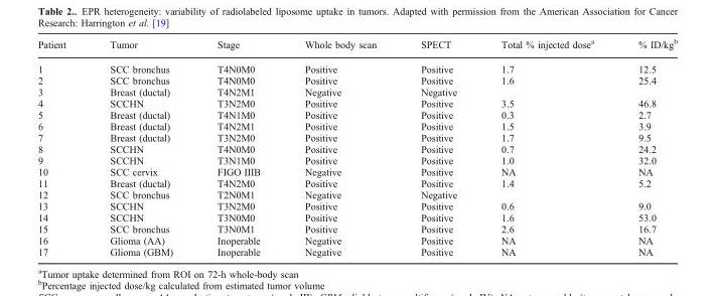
<table><thead><tr><td>Patient</td><td>Tumor</td><td>Stage</td><td>Whole body scan</td><td>SPECT</td><td>Total % injected dose<sup>a</sup></td><td>% ID/kg<sup>b</sup></td></tr></thead><tbody><tr><td>1</td><td>SCC bronchus</td><td>T4N0M0</td><td>Positive</td><td>Positive</td><td>1.7</td><td>12.5</td></tr><tr><td>2</td><td>SCC bronchus</td><td>T4N0M0</td><td>Positive</td><td>Positive</td><td>1.6</td><td>25.4</td></tr><tr><td>3</td><td>Breast (ductal)</td><td>T4N2M1</td><td>Negative</td><td>Negative</td><td></td><td></td></tr><tr><td>4</td><td>SCCHN</td><td>T3N2M0</td><td>Positive</td><td>Positive</td><td>3.5</td><td>46.8</td></tr><tr><td>5</td><td>Breast (ductal)</td><td>T4N1M0</td><td>Positive</td><td>Positive</td><td>0.3</td><td>2.7</td></tr><tr><td>6</td><td>Breast (ductal)</td><td>T4N2M1</td><td>Positive</td><td>Positive</td><td>1.5</td><td>3.9</td></tr><tr><td>7</td><td>Breast (ductal)</td><td>T3N2M0</td><td>Positive</td><td>Positive</td><td>1.7</td><td>9.5</td></tr><tr><td>8</td><td>SCCHN</td><td>T4N0M0</td><td>Positive</td><td>Positive</td><td>0.7</td><td>24.2</td></tr><tr><td>9</td><td>SCCHN</td><td>T3N1M0</td><td>Positive</td><td>Positive</td><td>1.0</td><td>32.0</td></tr><tr><td>10</td><td>SCC cervix</td><td>FIGO IIIB</td><td>Negative</td><td>Positive</td><td>NA</td><td>NA</td></tr><tr><td>11</td><td>Breast (ductal)</td><td>T4N2M0</td><td>Positive</td><td>Positive</td><td>1.4</td><td>5.2</td></tr><tr><td>12</td><td>SCC bronchus</td><td>T2N0M1</td><td>Negative</td><td>Negative</td><td></td><td></td></tr><tr><td>13</td><td>SCCHN</td><td>T3N2M0</td><td>Positive</td><td>Positive</td><td>0.6</td><td>9.0</td></tr><tr><td>14</td><td>SCCHN</td><td>T3N0M0</td><td>Positive</td><td>Positive</td><td>1.6</td><td>53.0</td></tr><tr><td>15</td><td>SCC bronchus</td><td>T3N0M1</td><td>Positive</td><td>Positive</td><td>2.6</td><td>16.7</td></tr><tr><td>16</td><td>Glioma (AA)</td><td>Inoperable</td><td>Negative</td><td>Positive</td><td>NA</td><td>NA</td></tr><tr><td>17</td><td>Glioma (GBM)</td><td>Inoperable</td><td>Negative</td><td>Positive</td><td>NA</td><td>NA</td></tr></tbody></table>